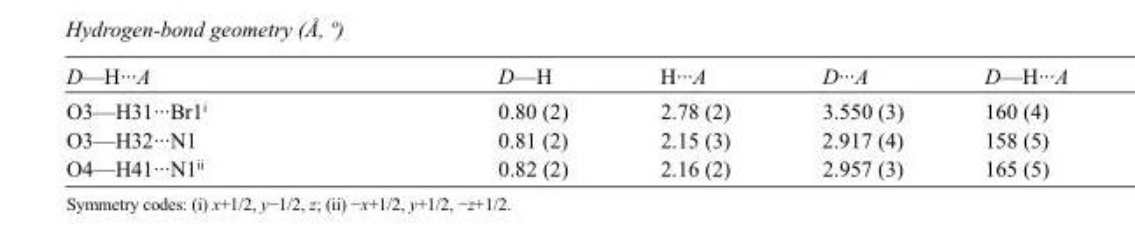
<table><tbody><tr><td>D—H···A</td><td>D—H</td><td>H···A</td><td>D···A</td><td>D—H···A</td></tr><tr><td>O3—H31···Br1<sup>i</sup></td><td>0.80 (2)</td><td>2.78 (2)</td><td>3.550 (3)</td><td>160 (4)</td></tr><tr><td>O3—H32···N1</td><td>0.81 (2)</td><td>2.15 (3)</td><td>2.917 (4)</td><td>158 (5)</td></tr><tr><td>O4—H41···N1<sup>ii</sup></td><td>0.82 (2)</td><td>2.16 (2)</td><td>2.957 (3)</td><td>165 (5)</td></tr></tbody></table>